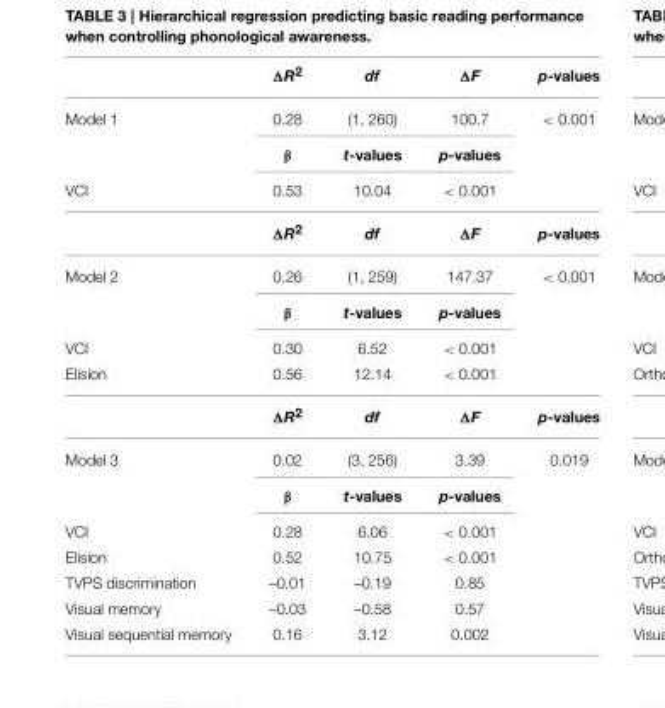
<table><thead><tr><td></td><td>ΔR<sup>2</sup></td><td>df</td><td>ΔF</td><td>p-values</td></tr></thead><tbody><tr><td rowspan="2">Model 1</td><td>0.28</td><td>(1, 260)</td><td>100.7</td><td>&lt; 0.001</td></tr><tr><td>β</td><td>t-values</td><td>p-values</td><td></td></tr><tr><td rowspan="2">VCI</td><td>0.53</td><td>10.04</td><td>&lt; 0.001</td><td></td></tr><tr><td>ΔR<sup>2</sup></td><td>df</td><td>ΔF</td><td>p-values</td></tr><tr><td rowspan="2">Model 2</td><td>0.26</td><td>(1, 259)</td><td>147.37</td><td>&lt; 0.001</td></tr><tr><td>β</td><td>t-values</td><td>p-values</td><td></td></tr><tr><td>VCI</td><td>0.30</td><td>6.52</td><td>&lt; 0.001</td><td></td></tr><tr><td rowspan="2">Elision</td><td>0.56</td><td>12.14</td><td>&lt; 0.001</td><td></td></tr><tr><td>ΔR<sup>2</sup></td><td>df</td><td>ΔF</td><td>p-values</td></tr><tr><td rowspan="2">Model 3</td><td>0.02</td><td>(3, 256)</td><td>3.39</td><td>0.019</td></tr><tr><td>β</td><td>t-values</td><td>p-values</td><td></td></tr><tr><td>VCI</td><td>0.28</td><td>6.06</td><td>&lt; 0.001</td><td></td></tr><tr><td>Elision</td><td>0.52</td><td>10.75</td><td>&lt; 0.001</td><td></td></tr><tr><td>TVPS discrimination</td><td>–0.01</td><td>–0.19</td><td>0.85</td><td></td></tr><tr><td>Visual memory</td><td>–0.03</td><td>–0.58</td><td>0.57</td><td></td></tr><tr><td>Visual sequential memory</td><td>0.16</td><td>3.12</td><td>0.002</td><td></td></tr></tbody></table>